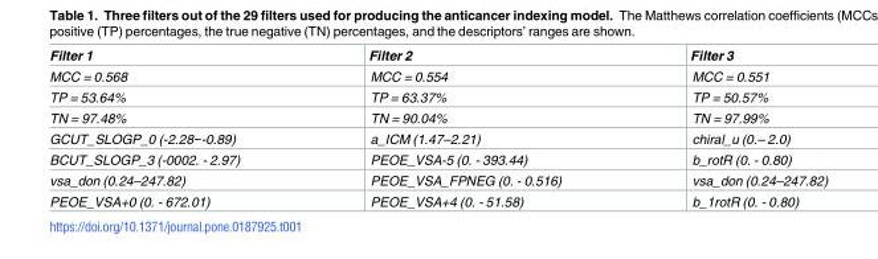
<table><thead><tr><td>Filter 1</td><td>Filter 2</td><td>Filter 3</td></tr></thead><tbody><tr><td>MCC = 0.568</td><td>MCC = 0.554</td><td>MCC = 0.551</td></tr><tr><td>TP = 53.64%</td><td>TP = 63.37%</td><td>TP = 50.57%</td></tr><tr><td>TN = 97.48%</td><td>TN = 90.04%</td><td>TN = 97.99%</td></tr><tr><td>GCUT_SLOGP_0 (-2.28−-0.89)</td><td>a_ICM (1.47–2.21)</td><td>chiral_u (0.– 2.0)</td></tr><tr><td>BCUT_SLOGP_3 (-0002. - 2.97)</td><td>PEOE_VSA-5 (0. - 393.44)</td><td>b_rotR (0. - 0.80)</td></tr><tr><td>vsa_don (0.24–247.82)</td><td>PEOE_VSA_FPNEG (0. - 0.516)</td><td>vsa_don (0.24–247.82)</td></tr><tr><td>PEOE_VSA+0 (0. - 672.01)</td><td>PEOE_VSA+4 (0. - 51.58)</td><td>b_1rotR (0. - 0.80)</td></tr></tbody></table>